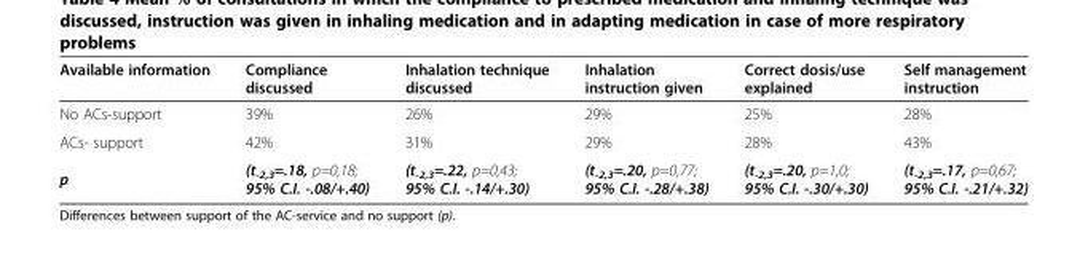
<table><thead><tr><td>Available information</td><td>Compliance discussed</td><td>Inhalation technique discussed</td><td>Inhalation instruction given</td><td>Correct dosis/use explained</td><td>Self management instruction</td></tr></thead><tbody><tr><td>No ACs-support</td><td>39%</td><td>26%</td><td>29%</td><td>25%</td><td>28%</td></tr><tr><td>ACs- support</td><td>42%</td><td>31%</td><td>29%</td><td>28%</td><td>43%</td></tr><tr><td>p</td><td>(t<sub>-2,3</sub>=.18, p=0,18; 95% C.I. -.08/+.40)</td><td>(t<sub>-2,3</sub>=.22, p=0,43; 95% C.I. -.14/+.30)</td><td>(t<sub>-2,3</sub>=.20, p=0,77; 95% C.I. -.28/+.38)</td><td>(t<sub>-2,3</sub>=.20, p=1,0; 95% C.I. -.30/+.30)</td><td>(t<sub>-2,3</sub>=.17, p=0,67; 95% C.I. -.21/+.32)</td></tr></tbody></table>